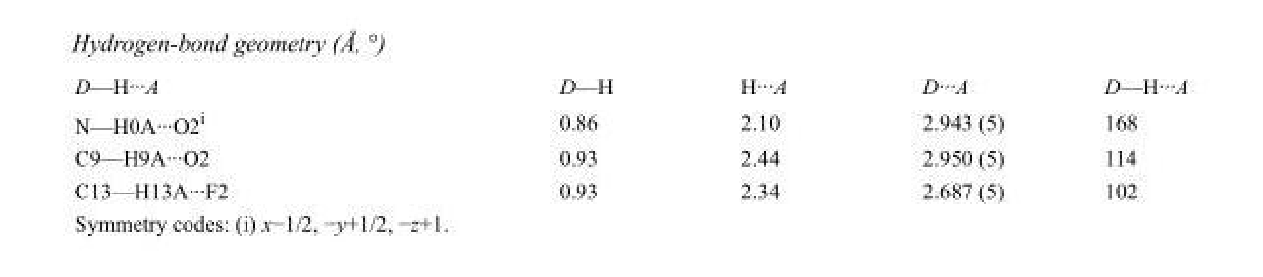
<table><tbody><tr><td>D—H···A</td><td>D—H</td><td>H···A</td><td>D···A</td><td>D—H···A</td></tr><tr><td>N—H0A···O2<sup>i</sup></td><td>0.86</td><td>2.10</td><td>2.943 (5)</td><td>168</td></tr><tr><td>C9—H9A···O2</td><td>0.93</td><td>2.44</td><td>2.950 (5)</td><td>114</td></tr><tr><td>C13—H13A···F2</td><td>0.93</td><td>2.34</td><td>2.687 (5)</td><td>102</td></tr></tbody></table>